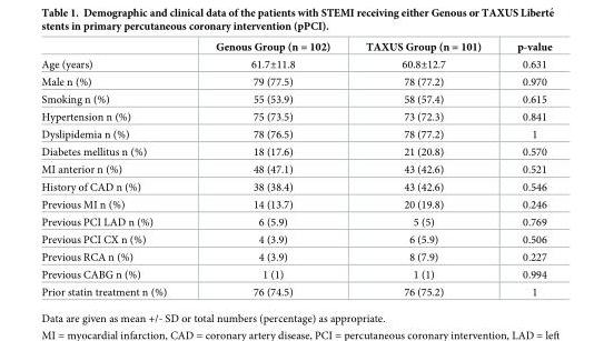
<table><thead><tr><td></td><td>Genous Group (n = 102)</td><td>TAXUS Group (n = 101)</td><td>p-value</td></tr></thead><tbody><tr><td>Age (years)</td><td>61.7±11.8</td><td>60.8±12.7</td><td>0.631</td></tr><tr><td>Male n (%)</td><td>79 (77.5)</td><td>78 (77.2)</td><td>0.970</td></tr><tr><td>Smoking n (%)</td><td>55 (53.9)</td><td>58 (57.4)</td><td>0.615</td></tr><tr><td>Hypertension n (%)</td><td>75 (73.5)</td><td>73 (72.3)</td><td>0.841</td></tr><tr><td>Dyslipidemia n (%)</td><td>78 (76.5)</td><td>78 (77.2)</td><td>1</td></tr><tr><td>Diabetes mellitus n (%)</td><td>18 (17.6)</td><td>21 (20.8)</td><td>0.570</td></tr><tr><td>MI anterior n (%)</td><td>48 (47.1)</td><td>43 (42.6)</td><td>0.521</td></tr><tr><td>History of CAD n (%)</td><td>38 (38.4)</td><td>43 (42.6)</td><td>0.546</td></tr><tr><td>Previous MI n (%)</td><td>14 (13.7)</td><td>20 (19.8)</td><td>0.246</td></tr><tr><td>Previous PCI LAD n (%)</td><td>6 (5.9)</td><td>5 (5)</td><td>0.769</td></tr><tr><td>Previous PCI CX n (%)</td><td>4 (3.9)</td><td>6 (5.9)</td><td>0.506</td></tr><tr><td>Previous RCA n (%)</td><td>4 (3.9)</td><td>8 (7.9)</td><td>0.227</td></tr><tr><td>Previous CABG n (%)</td><td>1 (1)</td><td>1 (1)</td><td>0.994</td></tr><tr><td>Prior statin treatment n (%)</td><td>76 (74.5)</td><td>76 (75.2)</td><td>1</td></tr></tbody></table>